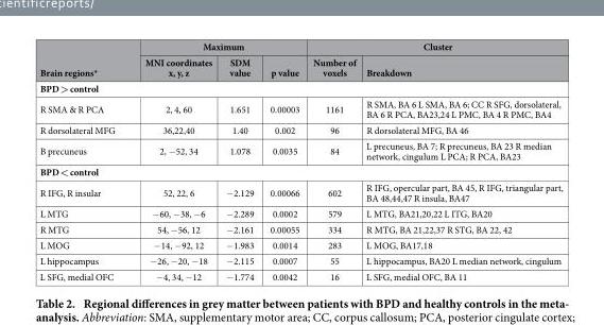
<table><thead><tr><td rowspan="2">Brain regions*</td><td colspan="3">Maximum</td><td colspan="2">Cluster</td></tr><tr><td>MNI coordinates x, y, z</td><td>SDM value</td><td>p value</td><td>Number of voxels</td><td>Breakdown</td></tr></thead><tbody><tr><td colspan="6">BPD &gt; control</td></tr><tr><td>R SMA &amp; R PCA</td><td>2, 4, 60</td><td>1.651</td><td>0.00003</td><td>1161</td><td>R SMA, BA 6 L SMA, BA 6; CC R SFG, dorsolateral, BA 6 R PCA, BA23,24 L PMC, BA 4 R PMC, BA4</td></tr><tr><td>R dorsolateral MFG</td><td>36,22,40</td><td>1.40</td><td>0.002</td><td>96</td><td>R dorsolateral MFG, BA 46</td></tr><tr><td>B precuneus</td><td>2, − 52, 34</td><td>1.078</td><td>0.0035</td><td>84</td><td>L precuneus, BA 7; R precuneus, BA 23 R median network, cingulum L PCA; R PCA, BA23</td></tr><tr><td colspan="6">BPD &lt; control</td></tr><tr><td>R IFG, R insular</td><td>52, 22, 6</td><td>− 2.129</td><td>0.00066</td><td>602</td><td>R IFG, opercular part, BA 45, R IFG, triangular part, BA 48,44,47 R insula, BA47</td></tr><tr><td>L MTG</td><td>− 60, − 38, − 6</td><td>− 2.289</td><td>0.0002</td><td>579</td><td>L MTG, BA21,20,22 L ITG, BA20</td></tr><tr><td>R MTG</td><td>54, − 56, 12</td><td>− 2.161</td><td>0.00055</td><td>334</td><td>R MTG, BA 21,22,37 R STG, BA 22, 42</td></tr><tr><td>L MOG</td><td>− 14, − 92, 12</td><td>− 1.983</td><td>0.0014</td><td>283</td><td>L MOG, BA17,18</td></tr><tr><td>L hippocampus</td><td>− 26, − 20, − 18</td><td>− 2.115</td><td>0.0007</td><td>55</td><td>L hippocampus, BA20 L median network, cingulum</td></tr><tr><td>L SFG, medial OFC</td><td>− 4, 34, − 12</td><td>− 1.774</td><td>0.0042</td><td>16</td><td>L SFG, medial OFC, BA 11</td></tr></tbody></table>